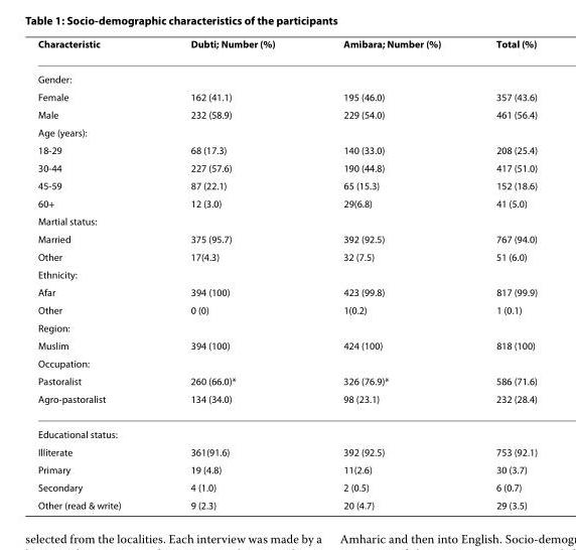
<table><thead><tr><td>Characteristic</td><td>Dubti; Number (%)</td><td>Amibara; Number (%)</td><td>Total (%)</td></tr></thead><tbody><tr><td colspan="4">Gender:</td></tr><tr><td>Female</td><td>162 (41.1)</td><td>195 (46.0)</td><td>357 (43.6)</td></tr><tr><td>Male</td><td>232 (58.9)</td><td>229 (54.0)</td><td>461 (56.4)</td></tr><tr><td colspan="4">Age (years):</td></tr><tr><td>18-29</td><td>68 (17.3)</td><td>140 (33.0)</td><td>208 (25.4)</td></tr><tr><td>30-44</td><td>227 (57.6)</td><td>190 (44.8)</td><td>417 (51.0)</td></tr><tr><td>45-59</td><td>87 (22.1)</td><td>65 (15.3)</td><td>152 (18.6)</td></tr><tr><td>60+</td><td>12 (3.0)</td><td>29(6.8)</td><td>41 (5.0)</td></tr><tr><td colspan="4">Martial status:</td></tr><tr><td>Married</td><td>375 (95.7)</td><td>392 (92.5)</td><td>767 (94.0)</td></tr><tr><td>Other</td><td>17(4.3)</td><td>32 (7.5)</td><td>51 (6.0)</td></tr><tr><td colspan="4">Ethnicity:</td></tr><tr><td>Afar</td><td>394 (100)</td><td>423 (99.8)</td><td>817 (99.9)</td></tr><tr><td>Other</td><td>0 (0)</td><td>1(0.2)</td><td>1 (0.1)</td></tr><tr><td colspan="4">Region:</td></tr><tr><td>Muslim</td><td>394 (100)</td><td>424 (100)</td><td>818 (100)</td></tr><tr><td colspan="4">Occupation:</td></tr><tr><td>Pastoralist</td><td>260 (66.0)*</td><td>326 (76.9)*</td><td>586 (71.6)</td></tr><tr><td>Agro-pastoralist</td><td>134 (34.0)</td><td>98 (23.1)</td><td>232 (28.4)</td></tr><tr><td colspan="4">Educational status:</td></tr><tr><td>Illiterate</td><td>361(91.6)</td><td>392 (92.5)</td><td>753 (92.1)</td></tr><tr><td>Primary</td><td>19 (4.8)</td><td>11(2.6)</td><td>30 (3.7)</td></tr><tr><td>Secondary</td><td>4 (1.0)</td><td>2 (0.5)</td><td>6 (0.7)</td></tr><tr><td>Other (read &amp; write)</td><td>9 (2.3)</td><td>20 (4.7)</td><td>29 (3.5)</td></tr></tbody></table>